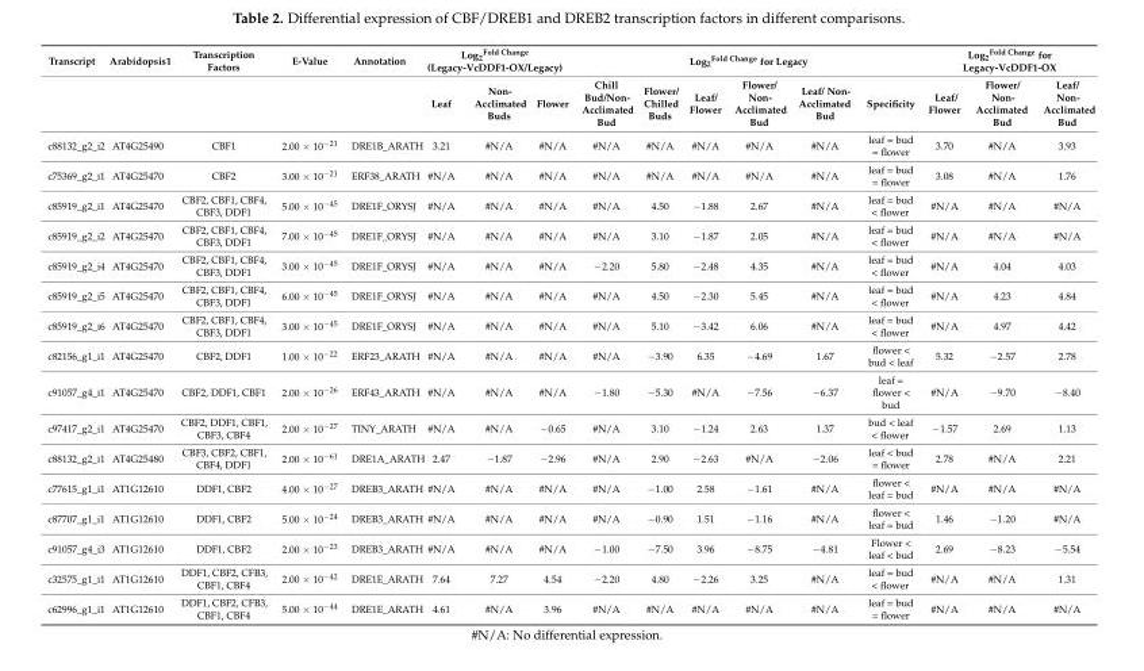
<table><thead><tr><td rowspan="2">Transcript</td><td rowspan="2">Arabidopsis1</td><td rowspan="2">Transcription Factors</td><td rowspan="2">E-Value</td><td rowspan="2">Annotation</td><td colspan="3">Log<sub>2</sub><sup>Fold Change</sup> (Legacy-VcDDF1-OX/Legacy)</td><td colspan="6">Log<sub>2</sub><sup>Fold Change</sup> for Legacy</td><td colspan="3">Log<sub>2</sub><sup>Fold Change</sup> for Legacy-VcDDF1-OX</td></tr><tr><td>Leaf</td><td>Non- Acclimated Buds</td><td>Flower</td><td>Chill Bud/Non- Acclimated Bud</td><td>Flower/ Chilled Buds</td><td>Leaf/ Flower</td><td>Flower/ Non- Acclimated Bud</td><td>Leaf/ Non- Acclimated Bud</td><td>Specificity</td><td>Leaf/ Flower</td><td>Flower/ Non- Acclimated Bud</td><td>Leaf/ Non- Acclimated Bud</td></tr></thead><tbody><tr><td>c88132_g2_i2</td><td>AT4G25490</td><td>CBF1</td><td>2.00 × 10<sup>−21</sup></td><td>DRE1B_ARATH</td><td>3.21</td><td>#N/A</td><td>#N/A</td><td>#N/A</td><td>#N/A</td><td>#N/A</td><td>#N/A</td><td>#N/A</td><td>leaf = bud = flower</td><td>3.70</td><td>#N/A</td><td>3.93</td></tr><tr><td>c75369_g2_i1</td><td>AT4G25470</td><td>CBF2</td><td>3.00 × 10<sup>−21</sup></td><td>ERF38_ARATH</td><td>#N/A</td><td>#N/A</td><td>#N/A</td><td>#N/A</td><td>#N/A</td><td>#N/A</td><td>#N/A</td><td>#N/A</td><td>leaf = bud = flower</td><td>3.08</td><td>#N/A</td><td>1.76</td></tr><tr><td>c85919_g2_i1</td><td>AT4G25470</td><td>CBF2, CBF1, CBF4, CBF3, DDF1</td><td>5.00 × 10<sup>−45</sup></td><td>DRE1F_ORYSJ</td><td>#N/A</td><td>#N/A</td><td>#N/A</td><td>#N/A</td><td>4.50</td><td>−1.88</td><td>2.67</td><td>#N/A</td><td>leaf = bud &lt; flower</td><td>#N/A</td><td>#N/A</td><td>#N/A</td></tr><tr><td>c85919_g2_i2</td><td>AT4G25470</td><td>CBF2, CBF1, CBF4, CBF3, DDF1</td><td>7.00 × 10<sup>−45</sup></td><td>DRE1F_ORYSJ</td><td>#N/A</td><td>#N/A</td><td>#N/A</td><td>#N/A</td><td>3.10</td><td>−1.87</td><td>2.05</td><td>#N/A</td><td>leaf = bud &lt; flower</td><td>#N/A</td><td>#N/A</td><td>#N/A</td></tr><tr><td>c85919_g2_i4</td><td>AT4G25470</td><td>CBF2, CBF1, CBF4, CBF3, DDF1</td><td>3.00 × 10<sup>−45</sup></td><td>DRE1F_ORYSJ</td><td>#N/A</td><td>#N/A</td><td>#N/A</td><td>−2.20</td><td>5.80</td><td>−2.48</td><td>4.35</td><td>#N/A</td><td>leaf = bud &lt; flower</td><td>#N/A</td><td>4.04</td><td>4.03</td></tr><tr><td>c85919_g2_i5</td><td>AT4G25470</td><td>CBF2, CBF1, CBF4, CBF3, DDF1</td><td>6.00 × 10<sup>−45</sup></td><td>DRE1F_ORYSJ</td><td>#N/A</td><td>#N/A</td><td>#N/A</td><td>#N/A</td><td>4.50</td><td>−2.30</td><td>5.45</td><td>#N/A</td><td>leaf = bud &lt; flower</td><td>#N/A</td><td>4.23</td><td>4.84</td></tr><tr><td>c85919_g2_i6</td><td>AT4G25470</td><td>CBF2, CBF1, CBF4, CBF3, DDF1</td><td>3.00 × 10<sup>−45</sup></td><td>DRE1F_ORYSJ</td><td>#N/A</td><td>#N/A</td><td>#N/A</td><td>#N/A</td><td>5.10</td><td>−3.42</td><td>6.06</td><td>#N/A</td><td>leaf = bud &lt; flower</td><td>#N/A</td><td>4.97</td><td>4.42</td></tr><tr><td>c82156_g1_i1</td><td>AT4G25470</td><td>CBF2, DDF1</td><td>1.00 × 10<sup>−22</sup></td><td>ERF23_ARATH</td><td>#N/A</td><td>#N/A</td><td>#N/A</td><td>#N/A</td><td>−3.90</td><td>6.35</td><td>−4.69</td><td>1.67</td><td>flower &lt; bud &lt; leaf</td><td>5.32</td><td>−2.57</td><td>2.78</td></tr><tr><td>c91057_g4_i1</td><td>AT4G25470</td><td>CBF2, DDF1, CBF1</td><td>2.00 × 10<sup>−26</sup></td><td>ERF43_ARATH</td><td>#N/A</td><td>#N/A</td><td>#N/A</td><td>−1.80</td><td>−5.30</td><td>#N/A</td><td>−7.56</td><td>−6.37</td><td>leaf = flower &lt; bud</td><td>#N/A</td><td>−9.70</td><td>−8.40</td></tr><tr><td>c97417_g2_i1</td><td>AT4G25470</td><td>CBF2, DDF1, CBF1, CBF3, CBF4</td><td>2.00 × 10<sup>−27</sup></td><td>TINY_ARATH</td><td>#N/A</td><td>#N/A</td><td>−0.65</td><td>#N/A</td><td>3.10</td><td>−1.24</td><td>2.63</td><td>1.37</td><td>bud &lt; leaf &lt; flower</td><td>−1.57</td><td>2.69</td><td>1.13</td></tr><tr><td>c88132_g2_i1</td><td>AT4G25480</td><td>CBF3, CBF2, CBF1, CBF4, DDF1</td><td>2.00 × 10<sup>−61</sup></td><td>DRE1A_ARATH</td><td>2.47</td><td>−1.87</td><td>−2.96</td><td>#N/A</td><td>2.90</td><td>−2.63</td><td>#N/A</td><td>−2.06</td><td>leaf &lt; bud = flower</td><td>2.78</td><td>#N/A</td><td>2.21</td></tr><tr><td>c77615_g1_i1</td><td>AT1G12610</td><td>DDF1, CBF2</td><td>4.00 × 10<sup>−27</sup></td><td>DREB3_ARATH</td><td>#N/A</td><td>#N/A</td><td>#N/A</td><td>#N/A</td><td>−1.00</td><td>2.58</td><td>−1.61</td><td>#N/A</td><td>flower &lt; leaf = bud</td><td>#N/A</td><td>#N/A</td><td>#N/A</td></tr><tr><td>c87707_g1_i1</td><td>AT1G12610</td><td>DDF1, CBF2</td><td>5.00 × 10<sup>−24</sup></td><td>DREB3_ARATH</td><td>#N/A</td><td>#N/A</td><td>#N/A</td><td>#N/A</td><td>−0.90</td><td>1.51</td><td>−1.16</td><td>#N/A</td><td>flower &lt; leaf = bud</td><td>1.46</td><td>−1.20</td><td>#N/A</td></tr><tr><td>c91057_g4_i3</td><td>AT1G12610</td><td>DDF1, CBF2</td><td>2.00 × 10<sup>−23</sup></td><td>DREB3_ARATH</td><td>#N/A</td><td>#N/A</td><td>#N/A</td><td>−1.00</td><td>−7.50</td><td>3.96</td><td>−8.75</td><td>−4.81</td><td>Flower &lt; leaf &lt; bud</td><td>2.69</td><td>−8.23</td><td>−5.54</td></tr><tr><td>c32575_g1_i1</td><td>AT1G12610</td><td>DDF1, CBF2, CFB3, CBF1, CBF4</td><td>2.00 × 10<sup>−42</sup></td><td>DRE1E_ARATH</td><td>7.64</td><td>7.27</td><td>4.54</td><td>−2.20</td><td>4.80</td><td>−2.26</td><td>3.25</td><td>#N/A</td><td>leaf = bud &lt; flower</td><td>#N/A</td><td>#N/A</td><td>1.31</td></tr><tr><td>c62996_g1_i1</td><td>AT1G12610</td><td>DDF1, CBF2, CFB3, CBF1, CBF4</td><td>5.00 × 10<sup>−44</sup></td><td>DRE1E_ARATH</td><td>4.61</td><td>#N/A</td><td>3.96</td><td>#N/A</td><td>#N/A</td><td>#N/A</td><td>#N/A</td><td>#N/A</td><td>leaf = bud = flower</td><td>#N/A</td><td>#N/A</td><td>#N/A</td></tr></tbody></table>